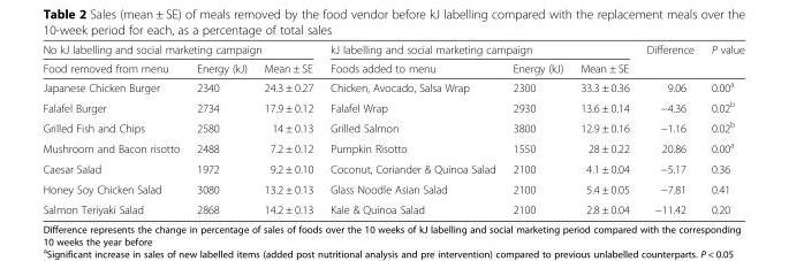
<table><thead><tr><td colspan="3">No kJ labelling and social marketing campaign</td><td colspan="3">kJ labelling and social marketing campaign</td><td rowspan="2">Difference</td><td rowspan="2">P value</td></tr><tr><td>Food removed from menu</td><td>Energy (kJ)</td><td>Mean ± SE</td><td>Foods added to menu</td><td>Energy (kJ)</td><td>Mean ± SE</td></tr></thead><tbody><tr><td>Japanese Chicken Burger</td><td>2340</td><td>24.3 ± 0.27</td><td>Chicken, Avocado, Salsa Wrap</td><td>2300</td><td>33.3 ± 0.36</td><td>9.06</td><td>0.00<sup>a</sup></td></tr><tr><td>Falafel Burger</td><td>2734</td><td>17.9 ± 0.12</td><td>Falafel Wrap</td><td>2930</td><td>13.6 ± 0.14</td><td>−4.36</td><td>0.02<sup>b</sup></td></tr><tr><td>Grilled Fish and Chips</td><td>2580</td><td>14 ± 0.13</td><td>Grilled Salmon</td><td>3800</td><td>12.9 ± 0.16</td><td>−1.16</td><td>0.02<sup>b</sup></td></tr><tr><td>Mushroom and Bacon risotto</td><td>2488</td><td>7.2 ± 0.12</td><td>Pumpkin Risotto</td><td>1550</td><td>28 ± 0.22</td><td>20.86</td><td>0.00<sup>a</sup></td></tr><tr><td>Caesar Salad</td><td>1972</td><td>9.2 ± 0.10</td><td>Coconut, Coriander &amp; Quinoa Salad</td><td>2100</td><td>4.1 ± 0.04</td><td>−5.17</td><td>0.36</td></tr><tr><td>Honey Soy Chicken Salad</td><td>3080</td><td>13.2 ± 0.13</td><td>Glass Noodle Asian Salad</td><td>2100</td><td>5.4 ± 0.05</td><td>−7.81</td><td>0.41</td></tr><tr><td>Salmon Teriyaki Salad</td><td>2868</td><td>14.2 ± 0.13</td><td>Kale &amp; Quinoa Salad</td><td>2100</td><td>2.8 ± 0.04</td><td>−11.42</td><td>0.20</td></tr></tbody></table>